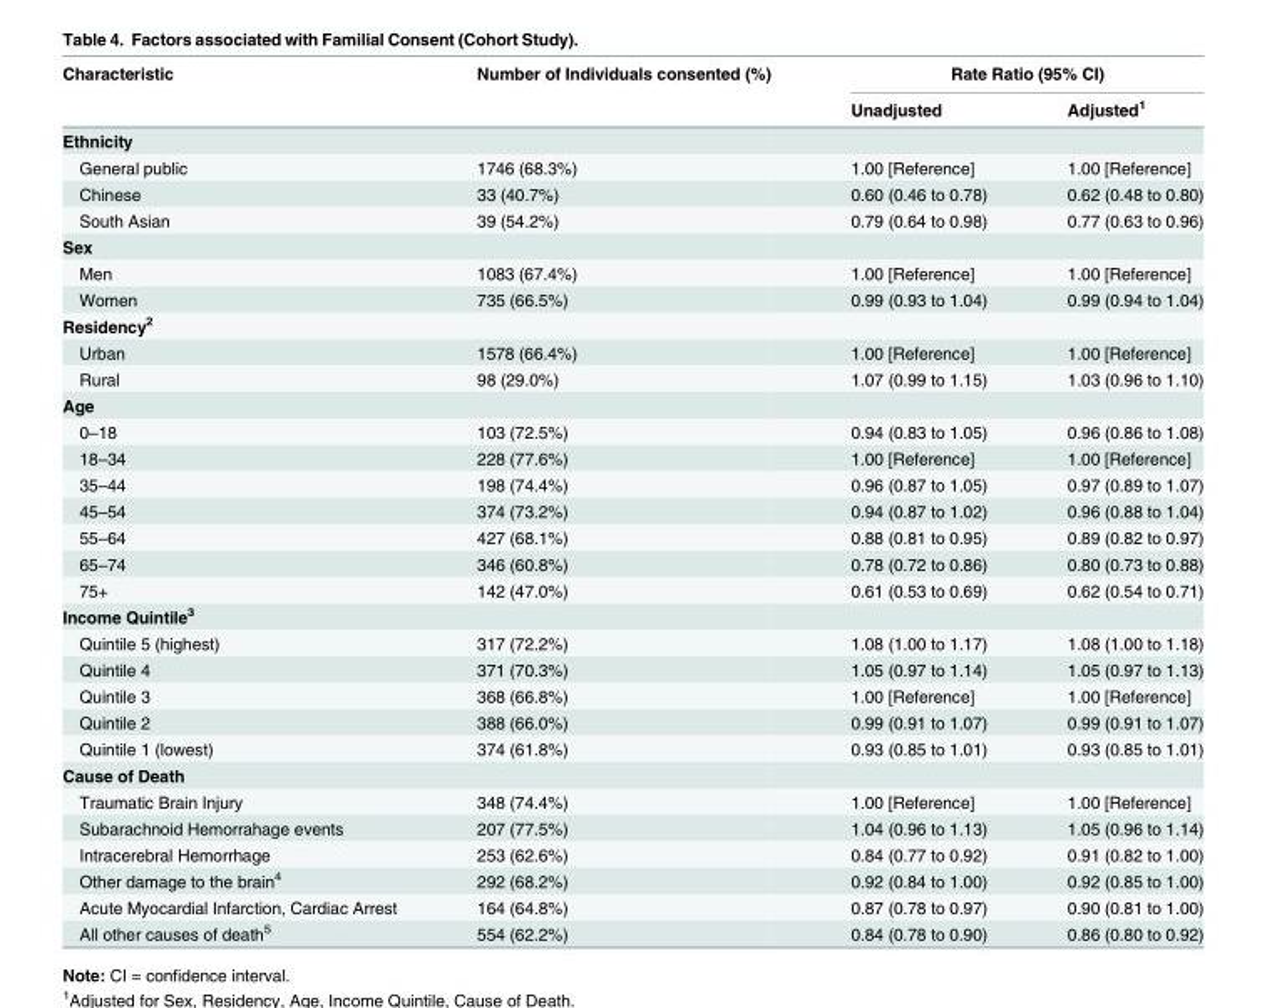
<table><thead><tr><td rowspan="2">Characteristic</td><td rowspan="2">Number of Individuals consented (%)</td><td colspan="2">Rate Ratio (95% CI)</td></tr><tr><td>Unadjusted</td><td>Adjusted<sup>1</sup></td></tr></thead><tbody><tr><td colspan="4">Ethnicity</td></tr><tr><td>General public</td><td>1746 (68.3%)</td><td>1.00 [Reference]</td><td>1.00 [Reference]</td></tr><tr><td>Chinese</td><td>33 (40.7%)</td><td>0.60 (0.46 to 0.78)</td><td>0.62 (0.48 to 0.80)</td></tr><tr><td>South Asian</td><td>39 (54.2%)</td><td>0.79 (0.64 to 0.98)</td><td>0.77 (0.63 to 0.96)</td></tr><tr><td colspan="4">Sex</td></tr><tr><td>Men</td><td>1083 (67.4%)</td><td>1.00 [Reference]</td><td>1.00 [Reference]</td></tr><tr><td>Women</td><td>735 (66.5%)</td><td>0.99 (0.93 to 1.04)</td><td>0.99 (0.94 to 1.04)</td></tr><tr><td colspan="4">Residency<sup>2</sup></td></tr><tr><td>Urban</td><td>1578 (66.4%)</td><td>1.00 [Reference]</td><td>1.00 [Reference]</td></tr><tr><td>Rural</td><td>98 (29.0%)</td><td>1.07 (0.99 to 1.15)</td><td>1.03 (0.96 to 1.10)</td></tr><tr><td colspan="4">Age</td></tr><tr><td>0–18</td><td>103 (72.5%)</td><td>0.94 (0.83 to 1.05)</td><td>0.96 (0.86 to 1.08)</td></tr><tr><td>18–34</td><td>228 (77.6%)</td><td>1.00 [Reference]</td><td>1.00 [Reference]</td></tr><tr><td>35–44</td><td>198 (74.4%)</td><td>0.96 (0.87 to 1.05)</td><td>0.97 (0.89 to 1.07)</td></tr><tr><td>45–54</td><td>374 (73.2%)</td><td>0.94 (0.87 to 1.02)</td><td>0.96 (0.88 to 1.04)</td></tr><tr><td>55–64</td><td>427 (68.1%)</td><td>0.88 (0.81 to 0.95)</td><td>0.89 (0.82 to 0.97)</td></tr><tr><td>65–74</td><td>346 (60.8%)</td><td>0.78 (0.72 to 0.86)</td><td>0.80 (0.73 to 0.88)</td></tr><tr><td>75+</td><td>142 (47.0%)</td><td>0.61 (0.53 to 0.69)</td><td>0.62 (0.54 to 0.71)</td></tr><tr><td colspan="4">Income Quintile<sup>3</sup></td></tr><tr><td>Quintile 5 (highest)</td><td>317 (72.2%)</td><td>1.08 (1.00 to 1.17)</td><td>1.08 (1.00 to 1.18)</td></tr><tr><td>Quintile 4</td><td>371 (70.3%)</td><td>1.05 (0.97 to 1.14)</td><td>1.05 (0.97 to 1.13)</td></tr><tr><td>Quintile 3</td><td>368 (66.8%)</td><td>1.00 [Reference]</td><td>1.00 [Reference]</td></tr><tr><td>Quintile 2</td><td>388 (66.0%)</td><td>0.99 (0.91 to 1.07)</td><td>0.99 (0.91 to 1.07)</td></tr><tr><td>Quintile 1 (lowest)</td><td>374 (61.8%)</td><td>0.93 (0.85 to 1.01)</td><td>0.93 (0.85 to 1.01)</td></tr><tr><td colspan="4">Cause of Death</td></tr><tr><td>Traumatic Brain Injury</td><td>348 (74.4%)</td><td>1.00 [Reference]</td><td>1.00 [Reference]</td></tr><tr><td>Subarachnoid Hemorrahage events</td><td>207 (77.5%)</td><td>1.04 (0.96 to 1.13)</td><td>1.05 (0.96 to 1.14)</td></tr><tr><td>Intracerebral Hemorrhage</td><td>253 (62.6%)</td><td>0.84 (0.77 to 0.92)</td><td>0.91 (0.82 to 1.00)</td></tr><tr><td>Other damage to the brain<sup>4</sup></td><td>292 (68.2%)</td><td>0.92 (0.84 to 1.00)</td><td>0.92 (0.85 to 1.00)</td></tr><tr><td>Acute Myocardial Infarction, Cardiac Arrest</td><td>164 (64.8%)</td><td>0.87 (0.78 to 0.97)</td><td>0.90 (0.81 to 1.00)</td></tr><tr><td>All other causes of death<sup>5</sup></td><td>554 (62.2%)</td><td>0.84 (0.78 to 0.90)</td><td>0.86 (0.80 to 0.92)</td></tr></tbody></table>